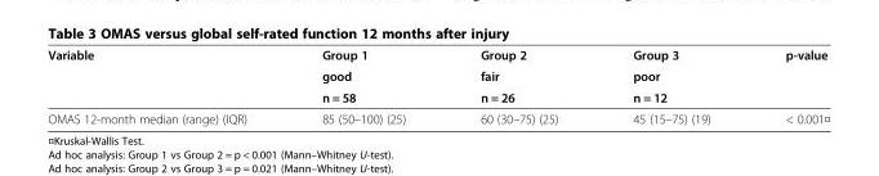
<table><thead><tr><td rowspan="3">Variable</td><td rowspan="3">Group 1 good n = 58</td><td rowspan="3">Group 2 fair n = 26</td><td rowspan="3">Group 3 poor n = 12</td><td rowspan="3">p-value</td></tr><tr></tr><tr></tr></thead><tbody><tr><td>OMAS 12-month median (range) (IQR)</td><td>85 (50–100) (25)</td><td>60 (30–75) (25)</td><td>45 (15–75) (19)</td><td>&lt; 0.001¤</td></tr></tbody></table>